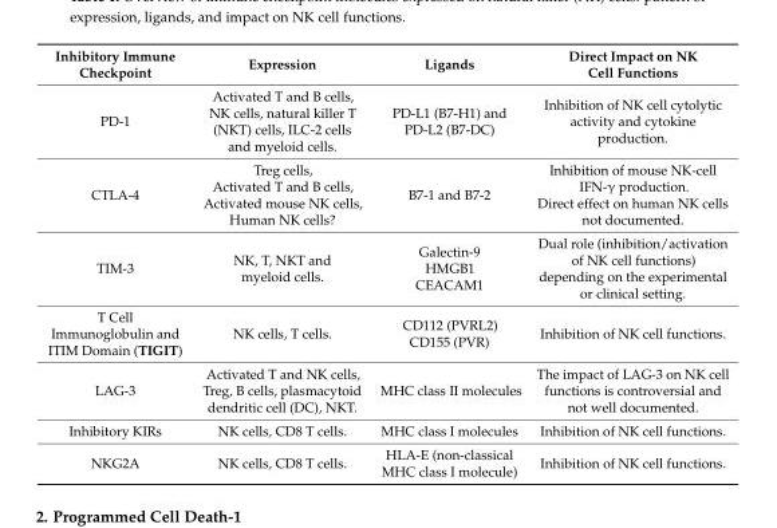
<table><thead><tr><td>Inhibitory Immune Checkpoint</td><td>Expression</td><td>Ligands</td><td>Direct Impact on NK Cell Functions</td></tr></thead><tbody><tr><td>PD-1</td><td>Activated T and B cells, NK cells, natural killer T (NKT) cells, ILC-2 cells and myeloid cells.</td><td>PD-L1 (B7-H1) and PD-L2 (B7-DC)</td><td>Inhibition of NK cell cytolytic activity and cytokine production.</td></tr><tr><td>CTLA-4</td><td>Treg cells, Activated T and B cells, Activated mouse NK cells, Human NK cells?</td><td>B7-1 and B7-2</td><td>Inhibition of mouse NK-cell IFN-γ production. Direct effect on human NK cells not documented.</td></tr><tr><td>TIM-3</td><td>NK, T, NKT and myeloid cells.</td><td>Galectin-9 HMGB1 CEACAM1</td><td>Dual role (inhibition/activation of NK cell functions) depending on the experimental or clinical setting.</td></tr><tr><td>T Cell Immunoglobulin and ITIM Domain (TIGIT)</td><td>NK cells, T cells.</td><td>CD112 (PVRL2) CD155 (PVR)</td><td>Inhibition of NK cell functions.</td></tr><tr><td>LAG-3</td><td>Activated T and NK cells, Treg, B cells, plasmacytoid dendritic cell (DC), NKT.</td><td>MHC class II molecules</td><td>The impact of LAG-3 on NK cell functions is controversial and not well documented.</td></tr><tr><td>Inhibitory KIRs</td><td>NK cells, CD8 T cells.</td><td>MHC class I molecules</td><td>Inhibition of NK cell functions.</td></tr><tr><td>NKG2A</td><td>NK cells, CD8 T cells.</td><td>HLA-E (non-classical MHC class I molecule)</td><td>Inhibition of NK cell functions.</td></tr></tbody></table>